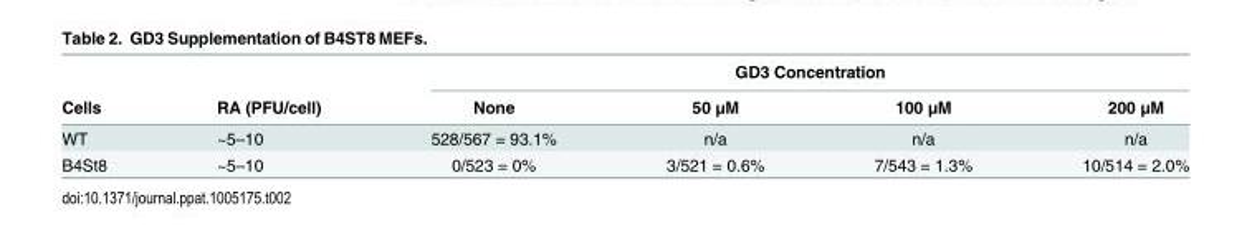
<table><thead><tr><td rowspan="2">Cells</td><td rowspan="2">RA (PFU/cell)</td><td colspan="4">GD3 Concentration</td></tr><tr><td>None</td><td>50 μM</td><td>100 μM</td><td>200 μM</td></tr></thead><tbody><tr><td>WT</td><td>~5–10</td><td>528/567 = 93.1%</td><td>n/a</td><td>n/a</td><td>n/a</td></tr><tr><td>B4St8</td><td>~5–10</td><td>0/523 = 0%</td><td>3/521 = 0.6%</td><td>7/543 = 1.3%</td><td>10/514 = 2.0%</td></tr></tbody></table>